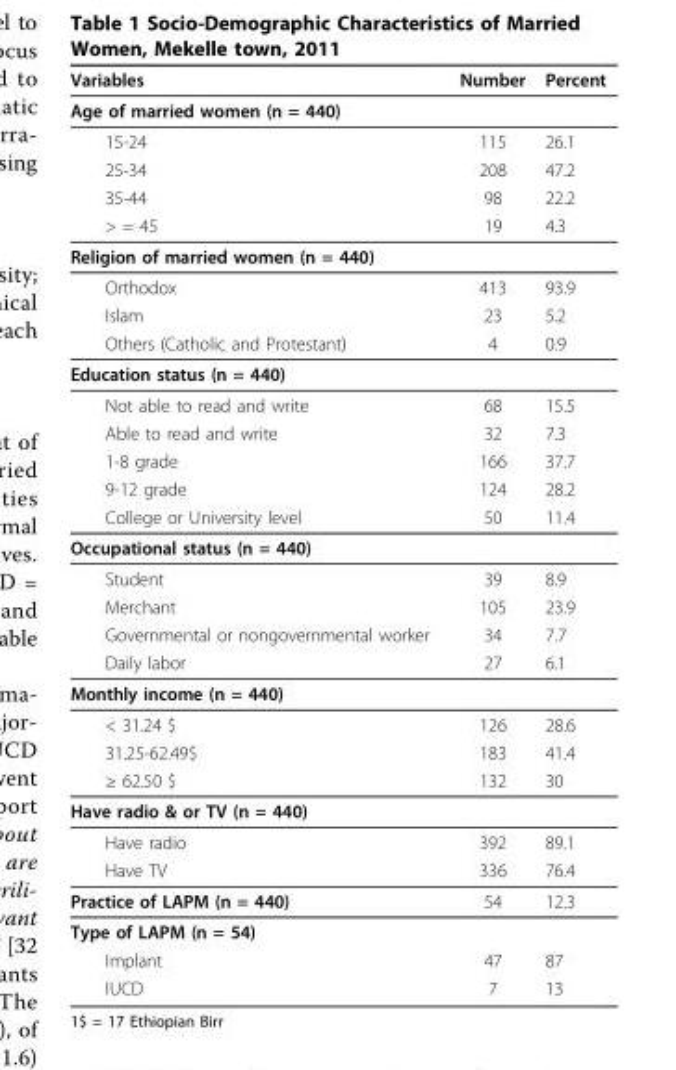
<table><thead><tr><td>Variables</td><td>Number</td><td>Percent</td></tr></thead><tbody><tr><td colspan="3">Age of married women (n = 440)</td></tr><tr><td>15-24</td><td>115</td><td>26.1</td></tr><tr><td>25-34</td><td>208</td><td>47.2</td></tr><tr><td>35-44</td><td>98</td><td>22.2</td></tr><tr><td>&gt; = 45</td><td>19</td><td>4.3</td></tr><tr><td colspan="3">Religion of married women (n = 440)</td></tr><tr><td>Orthodox</td><td>413</td><td>93.9</td></tr><tr><td>Islam</td><td>23</td><td>5.2</td></tr><tr><td>Others (Catholic and Protestant)</td><td>4</td><td>0.9</td></tr><tr><td colspan="3">Education status (n = 440)</td></tr><tr><td>Not able to read and write</td><td>68</td><td>15.5</td></tr><tr><td>Able to read and write</td><td>32</td><td>7.3</td></tr><tr><td>1-8 grade</td><td>166</td><td>37.7</td></tr><tr><td>9-12 grade</td><td>124</td><td>28.2</td></tr><tr><td>College or University level</td><td>50</td><td>11.4</td></tr><tr><td colspan="3">Occupational status (n = 440)</td></tr><tr><td>Student</td><td>39</td><td>8.9</td></tr><tr><td>Merchant</td><td>105</td><td>23.9</td></tr><tr><td>Governmental or nongovernmental worker</td><td>34</td><td>7.7</td></tr><tr><td>Daily labor</td><td>27</td><td>6.1</td></tr><tr><td colspan="3">Monthly income (n = 440)</td></tr><tr><td>&lt; 31.24 $</td><td>126</td><td>28.6</td></tr><tr><td>31.25-62.49$</td><td>183</td><td>41.4</td></tr><tr><td>≥ 62.50 $</td><td>132</td><td>30</td></tr><tr><td colspan="3">Have radio &amp; or TV (n = 440)</td></tr><tr><td>Have radio</td><td>392</td><td>89.1</td></tr><tr><td>Have TV</td><td>336</td><td>76.4</td></tr><tr><td>Practice of LAPM (n = 440)</td><td>54</td><td>12.3</td></tr><tr><td colspan="3">Type of LAPM (n = 54)</td></tr><tr><td>Implant</td><td>47</td><td>87</td></tr><tr><td>IUCD</td><td>7</td><td>13</td></tr></tbody></table>